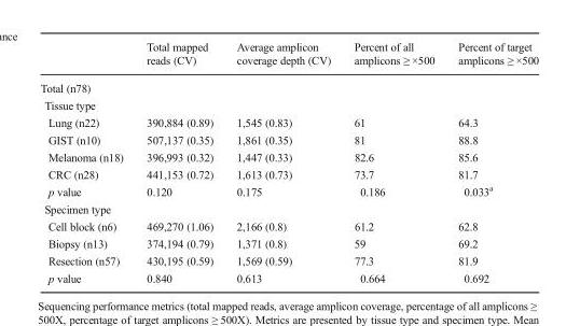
<table><thead><tr><td></td><td>Total mapped reads (CV)</td><td>Average amplicon coverage depth (CV)</td><td>Percent of all amplicons ≥ ×500</td><td>Percent of target amplicons ≥ ×500</td></tr></thead><tbody><tr><td colspan="5">Total (n78)</td></tr><tr><td colspan="5">Tissue type</td></tr><tr><td>Lung (n22)</td><td>390,884 (0.89)</td><td>1,545 (0.83)</td><td>61</td><td>64.3</td></tr><tr><td>GIST (n10)</td><td>507,137 (0.35)</td><td>1,861 (0.35)</td><td>81</td><td>88.8</td></tr><tr><td>Melanoma (n18)</td><td>396,993 (0.32)</td><td>1,447 (0.33)</td><td>82.6</td><td>85.6</td></tr><tr><td>CRC (n28)</td><td>441,153 (0.72)</td><td>1,613 (0.73)</td><td>73.7</td><td>81.7</td></tr><tr><td>p value</td><td>0.120</td><td>0.175</td><td>0.186</td><td>0.033<sup>a</sup></td></tr><tr><td colspan="5">Specimen type</td></tr><tr><td>Cell block (n6)</td><td>469,270 (1.06)</td><td>2,166 (0.8)</td><td>61.2</td><td>62.8</td></tr><tr><td>Biopsy (n13)</td><td>374,194 (0.79)</td><td>1,371 (0.8)</td><td>59</td><td>69.2</td></tr><tr><td>Resection (n57)</td><td>430,195 (0.59)</td><td>1,569 (0.59)</td><td>77.3</td><td>81.9</td></tr><tr><td>p value</td><td>0.840</td><td>0.613</td><td>0.664</td><td>0.692</td></tr></tbody></table>